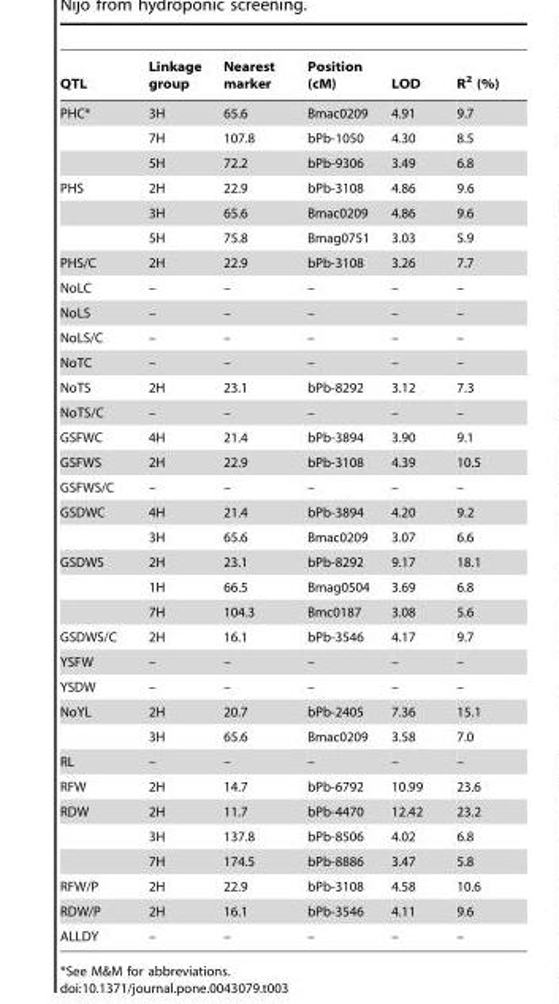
<table><thead><tr><td>QTL</td><td>Linkage group</td><td>Nearest marker</td><td>Position (cM)</td><td>LOD</td><td>R<sup>2</sup> (%)</td></tr></thead><tbody><tr><td rowspan="3">PHC*</td><td>3H</td><td>65.6</td><td>Bmac0209</td><td>4.91</td><td>9.7</td></tr><tr><td>7H</td><td>107.8</td><td>bPb-1050</td><td>4.30</td><td>8.5</td></tr><tr><td>5H</td><td>72.2</td><td>bPb-9306</td><td>3.49</td><td>6.8</td></tr><tr><td rowspan="3">PHS</td><td>2H</td><td>22.9</td><td>bPb-3108</td><td>4.86</td><td>9.6</td></tr><tr><td>3H</td><td>65.6</td><td>Bmac0209</td><td>4.86</td><td>9.6</td></tr><tr><td>5H</td><td>75.8</td><td>Bmag0751</td><td>3.03</td><td>5.9</td></tr><tr><td>PHS/C</td><td>2H</td><td>22.9</td><td>bPb-3108</td><td>3.26</td><td>7.7</td></tr><tr><td>NoLC</td><td>–</td><td>–</td><td>–</td><td>–</td><td>–</td></tr><tr><td>NoLS</td><td>–</td><td>–</td><td>–</td><td>–</td><td>–</td></tr><tr><td>NoLS/C</td><td>–</td><td>–</td><td>–</td><td>–</td><td>–</td></tr><tr><td>NoTC</td><td>–</td><td>–</td><td>–</td><td>–</td><td>–</td></tr><tr><td>NoTS</td><td>2H</td><td>23.1</td><td>bPb-8292</td><td>3.12</td><td>7.3</td></tr><tr><td>NoTS/C</td><td>–</td><td>–</td><td>–</td><td>–</td><td>–</td></tr><tr><td>GSFWC</td><td>4H</td><td>21.4</td><td>bPb-3894</td><td>3.90</td><td>9.1</td></tr><tr><td>GSFWS</td><td>2H</td><td>22.9</td><td>bPb-3108</td><td>4.39</td><td>10.5</td></tr><tr><td>GSFWS/C</td><td>–</td><td>–</td><td>–</td><td>–</td><td>–</td></tr><tr><td rowspan="2">GSDWC</td><td>4H</td><td>21.4</td><td>bPb-3894</td><td>4.20</td><td>9.2</td></tr><tr><td>3H</td><td>65.6</td><td>Bmac0209</td><td>3.07</td><td>6.6</td></tr><tr><td rowspan="3">GSDWS</td><td>2H</td><td>23.1</td><td>bPb-8292</td><td>9.17</td><td>18.1</td></tr><tr><td>1H</td><td>66.5</td><td>Bmag0504</td><td>3.69</td><td>6.8</td></tr><tr><td>7H</td><td>104.3</td><td>Bmc0187</td><td>3.08</td><td>5.6</td></tr><tr><td>GSDWS/C</td><td>2H</td><td>16.1</td><td>bPb-3546</td><td>4.17</td><td>9.7</td></tr><tr><td>YSFW</td><td>–</td><td>–</td><td>–</td><td>–</td><td>–</td></tr><tr><td>YSDW</td><td>–</td><td>–</td><td>–</td><td>–</td><td>–</td></tr><tr><td rowspan="2">NoYL</td><td>2H</td><td>20.7</td><td>bPb-2405</td><td>7.36</td><td>15.1</td></tr><tr><td>3H</td><td>65.6</td><td>Bmac0209</td><td>3.58</td><td>7.0</td></tr><tr><td>RL</td><td>–</td><td>–</td><td>–</td><td>–</td><td>–</td></tr><tr><td>RFW</td><td>2H</td><td>14.7</td><td>bPb-6792</td><td>10.99</td><td>23.6</td></tr><tr><td rowspan="3">RDW</td><td>2H</td><td>11.7</td><td>bPb-4470</td><td>12.42</td><td>23.2</td></tr><tr><td>3H</td><td>137.8</td><td>bPb-8506</td><td>4.02</td><td>6.8</td></tr><tr><td>7H</td><td>174.5</td><td>bPb-8886</td><td>3.47</td><td>5.8</td></tr><tr><td>RFW/P</td><td>2H</td><td>22.9</td><td>bPb-3108</td><td>4.58</td><td>10.6</td></tr><tr><td>RDW/P</td><td>2H</td><td>16.1</td><td>bPb-3546</td><td>4.11</td><td>9.6</td></tr><tr><td>ALLDY</td><td>–</td><td>–</td><td>–</td><td>–</td><td>–</td></tr></tbody></table>